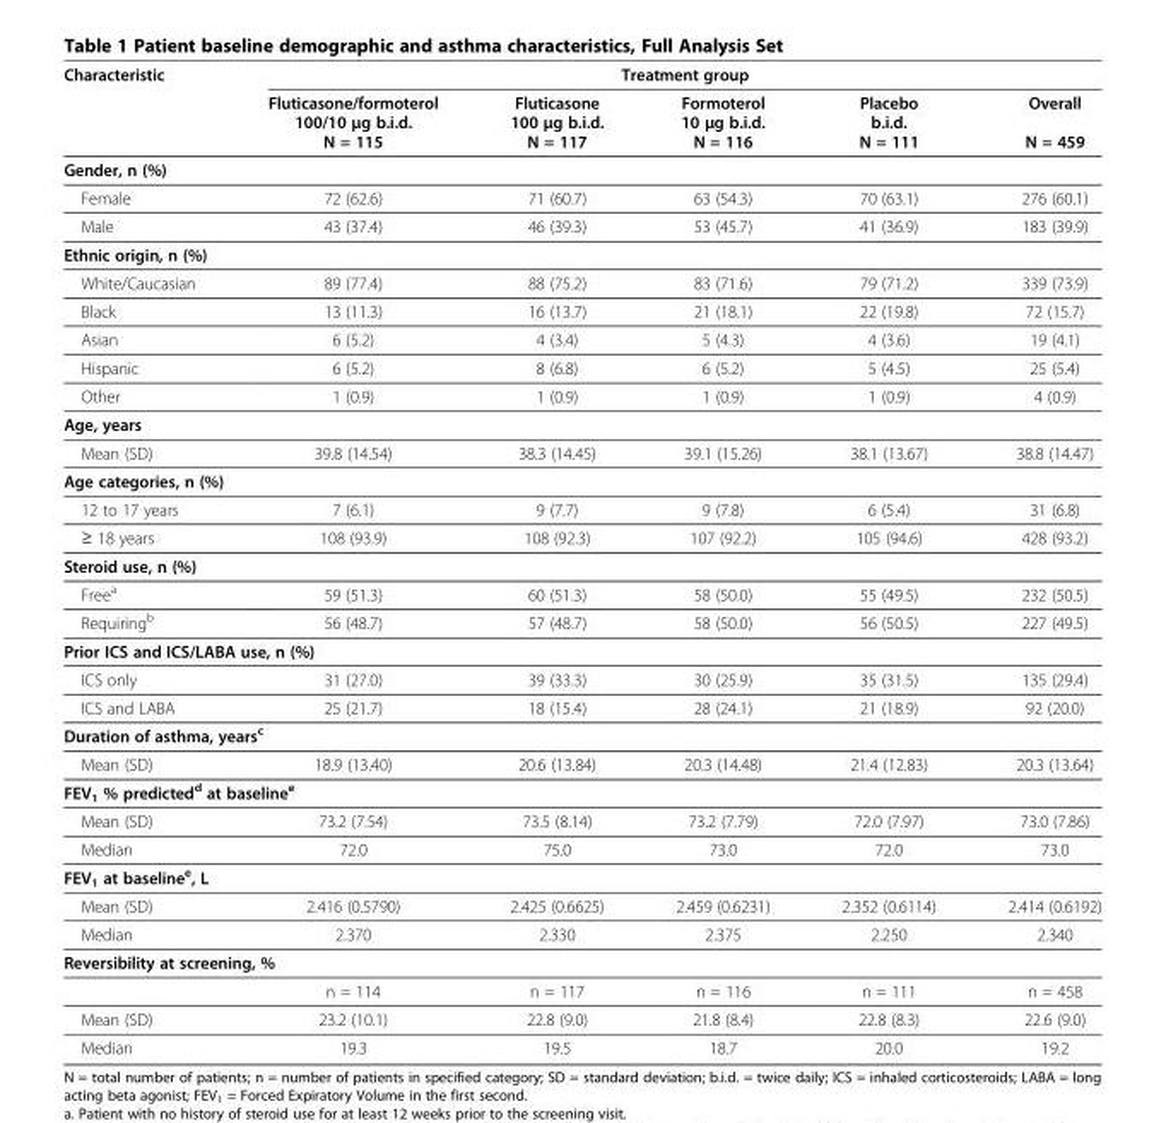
<table><thead><tr><td rowspan="2">Characteristic</td><td colspan="5">Treatment group</td></tr><tr><td>Fluticasone/formoterol 100/10 μg b.i.d. N = 115</td><td>Fluticasone 100 μg b.i.d. N = 117</td><td>Formoterol 10 μg b.i.d. N = 116</td><td>Placebo b.i.d. N = 111</td><td>Overall N = 459</td></tr></thead><tbody><tr><td colspan="6">Gender, n (%)</td></tr><tr><td>Female</td><td>72 (62.6)</td><td>71 (60.7)</td><td>63 (54.3)</td><td>70 (63.1)</td><td>276 (60.1)</td></tr><tr><td>Male</td><td>43 (37.4)</td><td>46 (39.3)</td><td>53 (45.7)</td><td>41 (36.9)</td><td>183 (39.9)</td></tr><tr><td colspan="6">Ethnic origin, n (%)</td></tr><tr><td>White/Caucasian</td><td>89 (77.4)</td><td>88 (75.2)</td><td>83 (71.6)</td><td>79 (71.2)</td><td>339 (73.9)</td></tr><tr><td>Black</td><td>13 (11.3)</td><td>16 (13.7)</td><td>21 (18.1)</td><td>22 (19.8)</td><td>72 (15.7)</td></tr><tr><td>Asian</td><td>6 (5.2)</td><td>4 (3.4)</td><td>5 (4.3)</td><td>4 (3.6)</td><td>19 (4.1)</td></tr><tr><td>Hispanic</td><td>6 (5.2)</td><td>8 (6.8)</td><td>6 (5.2)</td><td>5 (4.5)</td><td>25 (5.4)</td></tr><tr><td>Other</td><td>1 (0.9)</td><td>1 (0.9)</td><td>1 (0.9)</td><td>1 (0.9)</td><td>4 (0.9)</td></tr><tr><td colspan="6">Age, years</td></tr><tr><td>Mean (SD)</td><td>39.8 (14.54)</td><td>38.3 (14.45)</td><td>39.1 (15.26)</td><td>38.1 (13.67)</td><td>38.8 (14.47)</td></tr><tr><td colspan="6">Age categories, n (%)</td></tr><tr><td>12 to 17 years</td><td>7 (6.1)</td><td>9 (7.7)</td><td>9 (7.8)</td><td>6 (5.4)</td><td>31 (6.8)</td></tr><tr><td>≥ 18 years</td><td>108 (93.9)</td><td>108 (92.3)</td><td>107 (92.2)</td><td>105 (94.6)</td><td>428 (93.2)</td></tr><tr><td colspan="6">Steroid use, n (%)</td></tr><tr><td>Free<sup>a</sup></td><td>59 (51.3)</td><td>60 (51.3)</td><td>58 (50.0)</td><td>55 (49.5)</td><td>232 (50.5)</td></tr><tr><td>Requiring<sup>b</sup></td><td>56 (48.7)</td><td>57 (48.7)</td><td>58 (50.0)</td><td>56 (50.5)</td><td>227 (49.5)</td></tr><tr><td colspan="6">Prior ICS and ICS/LABA use, n (%)</td></tr><tr><td>ICS only</td><td>31 (27.0)</td><td>39 (33.3)</td><td>30 (25.9)</td><td>35 (31.5)</td><td>135 (29.4)</td></tr><tr><td>ICS and LABA</td><td>25 (21.7)</td><td>18 (15.4)</td><td>28 (24.1)</td><td>21 (18.9)</td><td>92 (20.0)</td></tr><tr><td colspan="6">Duration of asthma, years<sup>c</sup></td></tr><tr><td>Mean (SD)</td><td>18.9 (13.40)</td><td>20.6 (13.84)</td><td>20.3 (14.48)</td><td>21.4 (12.83)</td><td>20.3 (13.64)</td></tr><tr><td colspan="6">FEV<sub>1</sub> % predicted<sup>d</sup> at baseline<sup>e</sup></td></tr><tr><td>Mean (SD)</td><td>73.2 (7.54)</td><td>73.5 (8.14)</td><td>73.2 (7.79)</td><td>72.0 (7.97)</td><td>73.0 (7.86)</td></tr><tr><td>Median</td><td>72.0</td><td>75.0</td><td>73.0</td><td>72.0</td><td>73.0</td></tr><tr><td colspan="6">FEV<sub>1</sub> at baseline<sup>e</sup>, L</td></tr><tr><td>Mean (SD)</td><td>2.416 (0.5790)</td><td>2.425 (0.6625)</td><td>2.459 (0.6231)</td><td>2.352 (0.6114)</td><td>2.414 (0.6192)</td></tr><tr><td>Median</td><td>2.370</td><td>2.330</td><td>2.375</td><td>2.250</td><td>2.340</td></tr><tr><td colspan="6">Reversibility at screening, %</td></tr><tr><td></td><td>n = 114</td><td>n = 117</td><td>n = 116</td><td>n = 111</td><td>n = 458</td></tr><tr><td>Mean (SD)</td><td>23.2 (10.1)</td><td>22.8 (9.0)</td><td>21.8 (8.4)</td><td>22.8 (8.3)</td><td>22.6 (9.0)</td></tr><tr><td>Median</td><td>19.3</td><td>19.5</td><td>18.7</td><td>20.0</td><td>19.2</td></tr></tbody></table>